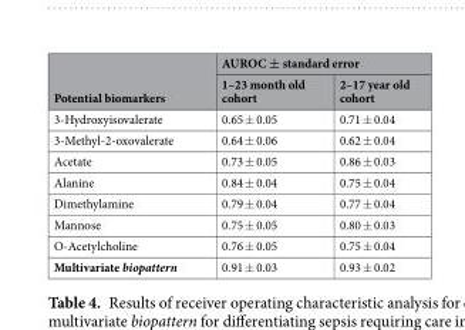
<table><thead><tr><td rowspan="2">Potential biomarkers</td><td colspan="2">AUROC ± standard error</td></tr><tr><td>1–23 month old cohort</td><td>2–17 year old cohort</td></tr></thead><tbody><tr><td>3-Hydroxyisovalerate</td><td>0.65 ± 0.05</td><td>0.71 ± 0.04</td></tr><tr><td>3-Methyl-2-oxovalerate</td><td>0.64 ± 0.06</td><td>0.62 ± 0.04</td></tr><tr><td>Acetate</td><td>0.73 ± 0.05</td><td>0.86 ± 0.03</td></tr><tr><td>Alanine</td><td>0.84 ± 0.04</td><td>0.75 ± 0.04</td></tr><tr><td>Dimethylamine</td><td>0.79 ± 0.04</td><td>0.77 ± 0.04</td></tr><tr><td>Mannose</td><td>0.75 ± 0.05</td><td>0.80 ± 0.03</td></tr><tr><td>O-Acetylcholine</td><td>0.76 ± 0.05</td><td>0.75 ± 0.04</td></tr><tr><td>Multivariate biopattern</td><td>0.91 ± 0.03</td><td>0.93 ± 0.02</td></tr></tbody></table>